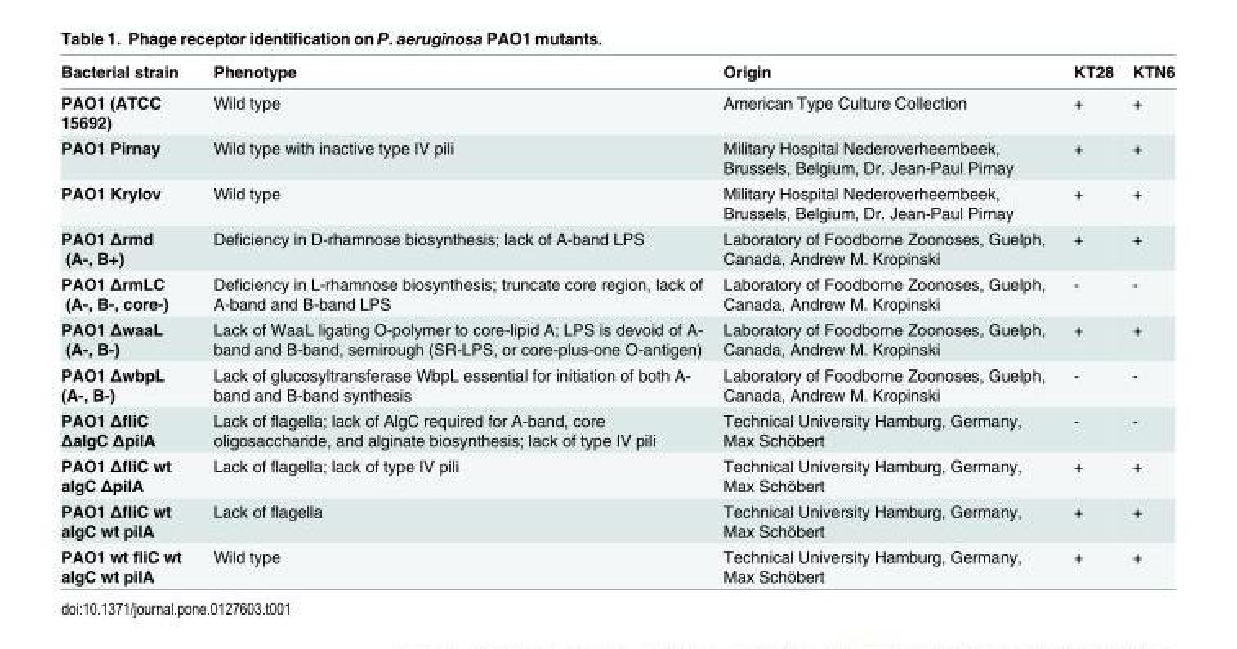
<table><thead><tr><td>Bacterial strain</td><td>Phenotype</td><td>Origin</td><td>KT28</td><td>KTN6</td></tr></thead><tbody><tr><td>PAO1 (ATCC 15692)</td><td>Wild type</td><td>American Type Culture Collection</td><td>+</td><td>+</td></tr><tr><td>PAO1 Pirnay</td><td>Wild type with inactive type IV pili</td><td>Military Hospital Nederoverheembeek, Brussels, Belgium, Dr. Jean-Paul Pirnay</td><td>+</td><td>+</td></tr><tr><td>PAO1 Krylov</td><td>Wild type</td><td>Military Hospital Nederoverheembeek, Brussels, Belgium, Dr. Jean-Paul Pirnay</td><td>+</td><td>+</td></tr><tr><td>PAO1 Δrmd (A-, B+)</td><td>Deficiency in D-rhamnose biosynthesis; lack of A-band LPS</td><td>Laboratory of Foodborne Zoonoses, Guelph, Canada, Andrew M. Kropinski</td><td>+</td><td>+</td></tr><tr><td>PAO1 ΔrmLC (A-, B-, core-)</td><td>Deficiency in L-rhamnose biosynthesis; truncate core region, lack of A-band and B-band LPS</td><td>Laboratory of Foodborne Zoonoses, Guelph, Canada, Andrew M. Kropinski</td><td>-</td><td>-</td></tr><tr><td>PAO1 ΔwaaL (A-, B-)</td><td>Lack of WaaL ligating O-polymer to core-lipid A; LPS is devoid of A- band and B-band, semirough (SR-LPS, or core-plus-one O-antigen)</td><td>Laboratory of Foodborne Zoonoses, Guelph, Canada, Andrew M. Kropinski</td><td>+</td><td>+</td></tr><tr><td>PAO1 ΔwbpL (A-, B-)</td><td>Lack of glucosyltransferase WbpL essential for initiation of both A- band and B-band synthesis</td><td>Laboratory of Foodborne Zoonoses, Guelph, Canada, Andrew M. Kropinski</td><td>-</td><td>-</td></tr><tr><td>PAO1 ΔfliC ΔalgC ΔpilA</td><td>Lack of flagella; lack of AlgC required for A-band, core oligosaccharide, and alginate biosynthesis; lack of type IV pili</td><td>Technical University Hamburg, Germany, Max Schöbert</td><td>-</td><td>-</td></tr><tr><td>PAO1 ΔfliC wt algC ΔpilA</td><td>Lack of flagella; lack of type IV pili</td><td>Technical University Hamburg, Germany, Max Schöbert</td><td>+</td><td>+</td></tr><tr><td>PAO1 ΔfliC wt algC wt pilA</td><td>Lack of flagella</td><td>Technical University Hamburg, Germany, Max Schöbert</td><td>+</td><td>+</td></tr><tr><td>PAO1 wt fliC wt algC wt pilA</td><td>Wild type</td><td>Technical University Hamburg, Germany, Max Schöbert</td><td>+</td><td>+</td></tr></tbody></table>